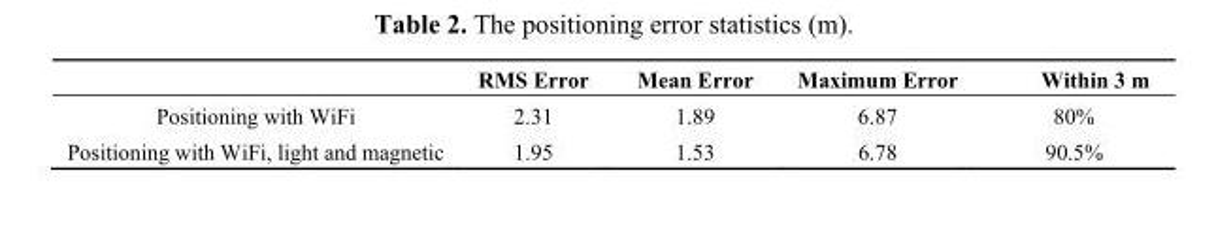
<table><thead><tr><td></td><td>RMS Error</td><td>Mean Error</td><td>Maximum Error</td><td>Within 3 m</td></tr></thead><tbody><tr><td>Positioning with WiFi</td><td>2.31</td><td>1.89</td><td>6.87</td><td>80%</td></tr><tr><td>Positioning with WiFi, light and magnetic</td><td>1.95</td><td>1.53</td><td>6.78</td><td>90.5%</td></tr></tbody></table>